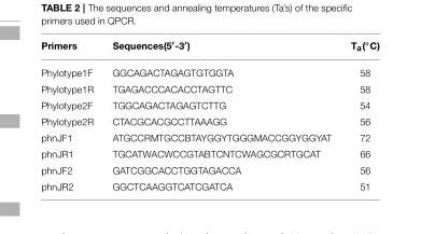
<table><thead><tr><td>Primers</td><td>Sequences(5′-3′)</td><td>Ta(◦C)</td></tr></thead><tbody><tr><td>Phylotype1F</td><td>GGCAGACTAGAGTGTGGTA</td><td>58</td></tr><tr><td>Phylotype1R</td><td>TGAGACCCACACCTAGTTC</td><td>58</td></tr><tr><td>Phylotype2F</td><td>TGGCAGACTAGAGTCTTG</td><td>54</td></tr><tr><td>Phylotype2R</td><td>CTACGCACGCCTTAAAGG</td><td>56</td></tr><tr><td>phnJF1</td><td>ATGCCRMTGCCBTAYGGYTGGGMACCGGYGGYAT</td><td>72</td></tr><tr><td>phnJR1</td><td>TGCATWACWCCGTABTCNTCWAGCGCRTGCAT</td><td>66</td></tr><tr><td>phnJF2</td><td>GATCGGCACCTGGTAGACCA</td><td>56</td></tr><tr><td>phnJR2</td><td>GGCTCAAGGTCATCGATCA</td><td>51</td></tr></tbody></table>